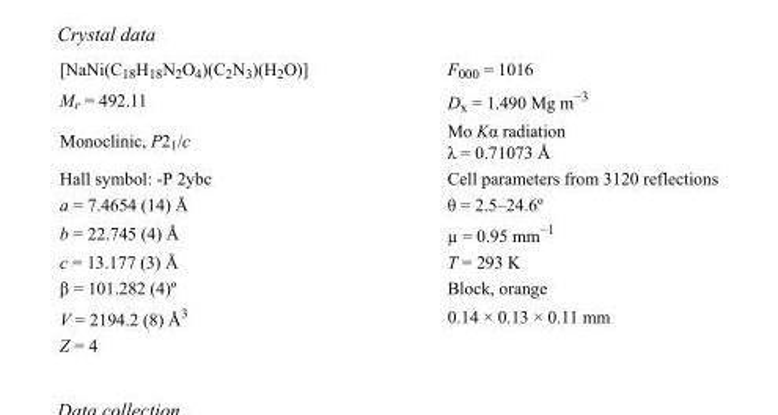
<table><tbody><tr><td>[NaNi(C<sub>18</sub>H<sub>18</sub>N<sub>2</sub>O<sub>4</sub>)(C<sub>2</sub>N<sub>3</sub>)(H<sub>2</sub>O)]</td><td>F000 = 1016</td></tr><tr><td>M<sub>r</sub> = 492.11</td><td>D<sub>x</sub> = 1.490 Mg m<sup>−3</sup></td></tr><tr><td>Monoclinic, P2<sub>1</sub>/c</td><td>Mo Kα radiation λ = 0.71073 Å</td></tr><tr><td>Hall symbol: -P 2ybc</td><td>Cell parameters from 3120 reflections</td></tr><tr><td>a = 7.4654 (14) Å</td><td>θ = 2.5–24.6º</td></tr><tr><td>b = 22.745 (4) Å</td><td>µ = 0.95 mm<sup>−1</sup></td></tr><tr><td>c = 13.177 (3) Å</td><td>T = 293 K</td></tr><tr><td>β = 101.282 (4)º</td><td>Block, orange</td></tr><tr><td>V = 2194.2 (8) Å<sup>3</sup></td><td>0.14 × 0.13 × 0.11 mm</td></tr><tr><td>Z = 4</td><td></td></tr></tbody></table>